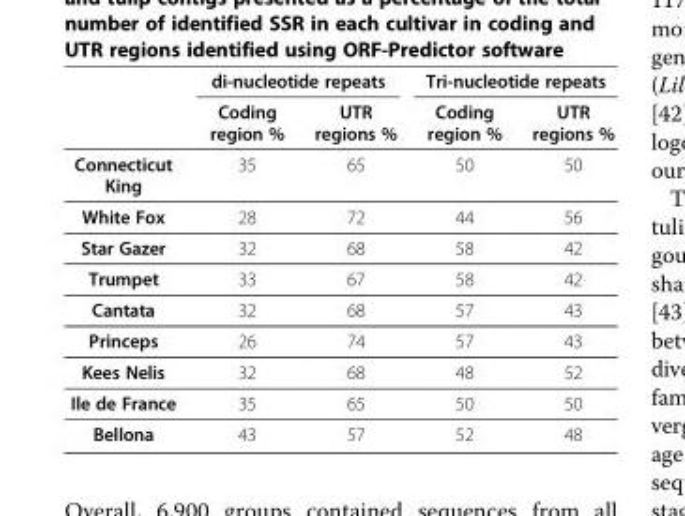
<table><thead><tr><td rowspan="2"></td><td colspan="2">di-nucleotide repeats</td><td colspan="2">Tri-nucleotide repeats</td></tr><tr><td>Coding region %</td><td>UTR regions %</td><td>Coding region %</td><td>UTR regions %</td></tr></thead><tbody><tr><td>Connecticut King</td><td>35</td><td>65</td><td>50</td><td>50</td></tr><tr><td>White Fox</td><td>28</td><td>72</td><td>44</td><td>56</td></tr><tr><td>Star Gazer</td><td>32</td><td>68</td><td>58</td><td>42</td></tr><tr><td>Trumpet</td><td>33</td><td>67</td><td>58</td><td>42</td></tr><tr><td>Cantata</td><td>32</td><td>68</td><td>57</td><td>43</td></tr><tr><td>Princeps</td><td>26</td><td>74</td><td>57</td><td>43</td></tr><tr><td>Kees Nelis</td><td>32</td><td>68</td><td>48</td><td>52</td></tr><tr><td>Ile de France</td><td>35</td><td>65</td><td>50</td><td>50</td></tr><tr><td>Bellona</td><td>43</td><td>57</td><td>52</td><td>48</td></tr></tbody></table>